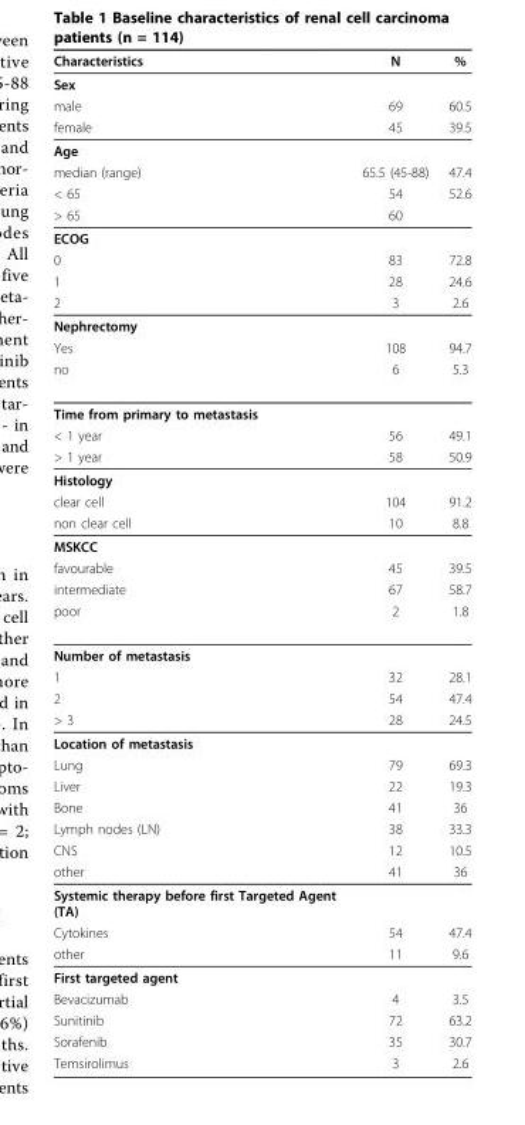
<table><thead><tr><td>Characteristics</td><td>N</td><td>%</td></tr></thead><tbody><tr><td colspan="3">Sex</td></tr><tr><td>male</td><td>69</td><td>60.5</td></tr><tr><td>female</td><td>45</td><td>39.5</td></tr><tr><td colspan="3">Age</td></tr><tr><td>median (range)</td><td>65.5 (45-88)</td><td>47.4</td></tr><tr><td>&lt; 65</td><td>54</td><td>52.6</td></tr><tr><td>&gt; 65</td><td>60</td><td></td></tr><tr><td colspan="3">ECOG</td></tr><tr><td>0</td><td>83</td><td>72.8</td></tr><tr><td>1</td><td>28</td><td>24.6</td></tr><tr><td>2</td><td>3</td><td>2.6</td></tr><tr><td colspan="3">Nephrectomy</td></tr><tr><td>Yes</td><td>108</td><td>94.7</td></tr><tr><td>no</td><td>6</td><td>5.3</td></tr><tr><td colspan="3">Time from primary to metastasis</td></tr><tr><td>&lt; 1 year</td><td>56</td><td>49.1</td></tr><tr><td>&gt; 1 year</td><td>58</td><td>50.9</td></tr><tr><td colspan="3">Histology</td></tr><tr><td>clear cell</td><td>104</td><td>91.2</td></tr><tr><td>non clear cell</td><td>10</td><td>8.8</td></tr><tr><td colspan="3">MSKCC</td></tr><tr><td>favourable</td><td>45</td><td>39.5</td></tr><tr><td>intermediate</td><td>67</td><td>58.7</td></tr><tr><td>poor</td><td>2</td><td>1.8</td></tr><tr><td colspan="3">Number of metastasis</td></tr><tr><td>1</td><td>32</td><td>28.1</td></tr><tr><td>2</td><td>54</td><td>47.4</td></tr><tr><td>&gt; 3</td><td>28</td><td>24.5</td></tr><tr><td colspan="3">Location of metastasis</td></tr><tr><td>Lung</td><td>79</td><td>69.3</td></tr><tr><td>Liver</td><td>22</td><td>19.3</td></tr><tr><td>Bone</td><td>41</td><td>36</td></tr><tr><td>Lymph nodes (LN)</td><td>38</td><td>33.3</td></tr><tr><td>CNS</td><td>12</td><td>10.5</td></tr><tr><td>other</td><td>41</td><td>36</td></tr><tr><td colspan="3">Systemic therapy before first Targeted Agent (TA)</td></tr><tr><td>Cytokines</td><td>54</td><td>47.4</td></tr><tr><td>other</td><td>11</td><td>9.6</td></tr><tr><td colspan="3">First targeted agent</td></tr><tr><td>Bevacizumab</td><td>4</td><td>3.5</td></tr><tr><td>Sunitinib</td><td>72</td><td>63.2</td></tr><tr><td>Sorafenib</td><td>35</td><td>30.7</td></tr><tr><td>Temsirolimus</td><td>3</td><td>2.6</td></tr></tbody></table>